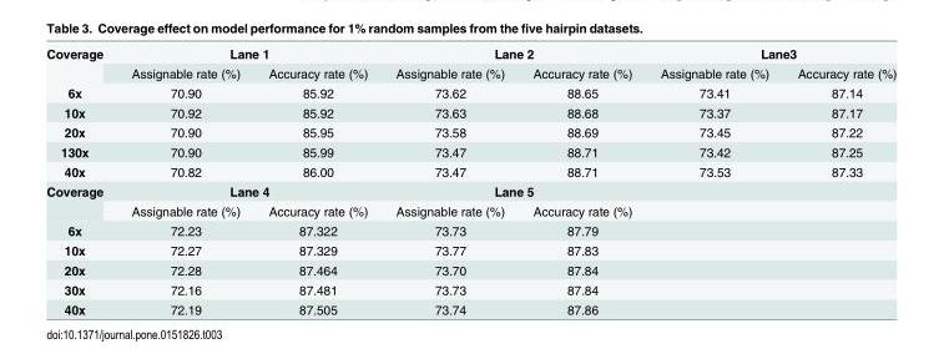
<table><tbody><tr><td rowspan="2">Coverage</td><td colspan="2">Lane 1</td><td colspan="2">Lane 2</td><td colspan="2">Lane3</td></tr><tr><td>Assignable rate (%)</td><td>Accuracy rate (%)</td><td>Assignable rate (%)</td><td>Accuracy rate (%)</td><td>Assignable rate (%)</td><td>Accuracy rate (%)</td></tr><tr><td>6x</td><td>70.90</td><td>85.92</td><td>73.62</td><td>88.65</td><td>73.41</td><td>87.14</td></tr><tr><td>10x</td><td>70.92</td><td>85.92</td><td>73.63</td><td>88.68</td><td>73.37</td><td>87.17</td></tr><tr><td>20x</td><td>70.90</td><td>85.95</td><td>73.58</td><td>88.69</td><td>73.45</td><td>87.22</td></tr><tr><td>130x</td><td>70.90</td><td>85.99</td><td>73.47</td><td>88.71</td><td>73.42</td><td>87.25</td></tr><tr><td>40x</td><td>70.82</td><td>86.00</td><td>73.47</td><td>88.71</td><td>73.53</td><td>87.33</td></tr><tr><td rowspan="2">Coverage</td><td colspan="2">Lane 4</td><td colspan="2">Lane 5</td><td></td><td></td></tr><tr><td>Assignable rate (%)</td><td>Accuracy rate (%)</td><td>Assignable rate (%)</td><td>Accuracy rate (%)</td><td></td><td></td></tr><tr><td>6x</td><td>72.23</td><td>87.322</td><td>73.73</td><td>87.79</td><td></td><td></td></tr><tr><td>10x</td><td>72.27</td><td>87.329</td><td>73.77</td><td>87.83</td><td></td><td></td></tr><tr><td>20x</td><td>72.28</td><td>87.464</td><td>73.70</td><td>87.84</td><td></td><td></td></tr><tr><td>30x</td><td>72.16</td><td>87.481</td><td>73.73</td><td>87.84</td><td></td><td></td></tr><tr><td>40x</td><td>72.19</td><td>87.505</td><td>73.74</td><td>87.86</td><td></td><td></td></tr></tbody></table>